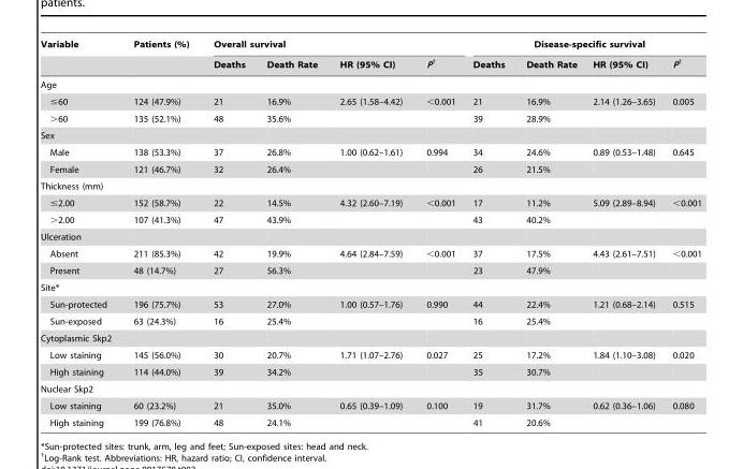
<table><thead><tr><td rowspan="2">Variable</td><td rowspan="2">Patients (%)</td><td colspan="4">Overall survival</td><td colspan="4">Disease-specific survival</td></tr><tr><td>Deaths</td><td>Death Rate</td><td>HR (95% CI)</td><td>P†</td><td>Deaths</td><td>Death Rate</td><td>HR (95% CI)</td><td>P†</td></tr></thead><tbody><tr><td colspan="10">Age</td></tr><tr><td>≤60</td><td>124 (47.9%)</td><td>21</td><td>16.9%</td><td>2.65 (1.58–4.42)</td><td>&lt;0.001</td><td>21</td><td>16.9%</td><td>2.14 (1.26–3.65)</td><td>0.005</td></tr><tr><td>&gt;60</td><td>135 (52.1%)</td><td>48</td><td>35.6%</td><td></td><td></td><td>39</td><td>28.9%</td><td></td><td></td></tr><tr><td colspan="10">Sex</td></tr><tr><td>Male</td><td>138 (53.3%)</td><td>37</td><td>26.8%</td><td>1.00 (0.62–1.61)</td><td>0.994</td><td>34</td><td>24.6%</td><td>0.89 (0.53–1.48)</td><td>0.645</td></tr><tr><td>Female</td><td>121 (46.7%)</td><td>32</td><td>26.4%</td><td></td><td></td><td>26</td><td>21.5%</td><td></td><td></td></tr><tr><td colspan="10">Thickness (mm)</td></tr><tr><td>≤2.00</td><td>152 (58.7%)</td><td>22</td><td>14.5%</td><td>4.32 (2.60–7.19)</td><td>&lt;0.001</td><td>17</td><td>11.2%</td><td>5.09 (2.89–8.94)</td><td>&lt;0.001</td></tr><tr><td>&gt;2.00</td><td>107 (41.3%)</td><td>47</td><td>43.9%</td><td></td><td></td><td>43</td><td>40.2%</td><td></td><td></td></tr><tr><td colspan="10">Ulceration</td></tr><tr><td>Absent</td><td>211 (85.3%)</td><td>42</td><td>19.9%</td><td>4.64 (2.84–7.59)</td><td>&lt;0.001</td><td>37</td><td>17.5%</td><td>4.43 (2.61–7.51)</td><td>&lt;0.001</td></tr><tr><td>Present</td><td>48 (14.7%)</td><td>27</td><td>56.3%</td><td></td><td></td><td>23</td><td>47.9%</td><td></td><td></td></tr><tr><td colspan="10">Site*</td></tr><tr><td>Sun-protected</td><td>196 (75.7%)</td><td>53</td><td>27.0%</td><td>1.00 (0.57–1.76)</td><td>0.990</td><td>44</td><td>22.4%</td><td>1.21 (0.68–2.14)</td><td>0.515</td></tr><tr><td>Sun-exposed</td><td>63 (24.3%)</td><td>16</td><td>25.4%</td><td></td><td></td><td>16</td><td>25.4%</td><td></td><td></td></tr><tr><td colspan="10">Cytoplasmic Skp2</td></tr><tr><td>Low staining</td><td>145 (56.0%)</td><td>30</td><td>20.7%</td><td>1.71 (1.07–2.76)</td><td>0.027</td><td>25</td><td>17.2%</td><td>1.84 (1.10–3.08)</td><td>0.020</td></tr><tr><td>High staining</td><td>114 (44.0%)</td><td>39</td><td>34.2%</td><td></td><td></td><td>35</td><td>30.7%</td><td></td><td></td></tr><tr><td colspan="10">Nuclear Skp2</td></tr><tr><td>Low staining</td><td>60 (23.2%)</td><td>21</td><td>35.0%</td><td>0.65 (0.39–1.09)</td><td>0.100</td><td>19</td><td>31.7%</td><td>0.62 (0.36–1.06)</td><td>0.080</td></tr><tr><td>High staining</td><td>199 (76.8%)</td><td>48</td><td>24.1%</td><td></td><td></td><td>41</td><td>20.6%</td><td></td><td></td></tr></tbody></table>